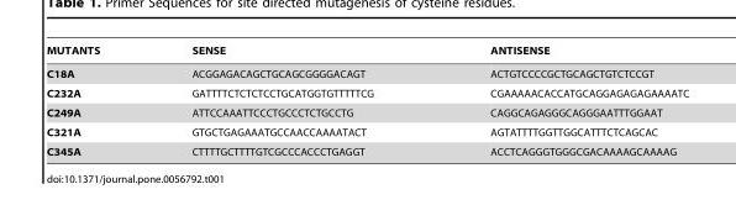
<table><thead><tr><td>MUTANTS</td><td>SENSE</td><td>ANTISENSE</td></tr></thead><tbody><tr><td>C18A</td><td>ACGGAGACAGCTGCAGCGGGGACAGT</td><td>ACTGTCCCCGCTGCAGCTGTCTCCGT</td></tr><tr><td>C232A</td><td>GATTTTCTCTCTCCTGCATGGTGTTTTTCG</td><td>CGAAAAACACCATGCAGGAGAGAGAAAATC</td></tr><tr><td>C249A</td><td>ATTCCAAATTCCCTGCCCTCTGCCTG</td><td>CAGGCAGAGGGCAGGGAATTTGGAAT</td></tr><tr><td>C321A</td><td>GTGCTGAGAAATGCCAACCAAAATACT</td><td>AGTATTTTGGTTGGCATTTCTCAGCAC</td></tr><tr><td>C345A</td><td>CTTTTGCTTTTGTCGCCCACCCTGAGGT</td><td>ACCTCAGGGTGGGCGACAAAAGCAAAAG</td></tr></tbody></table>